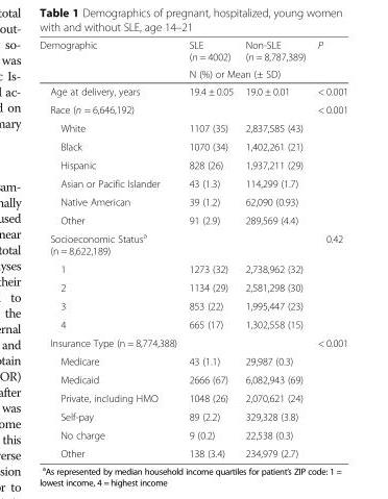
<table><thead><tr><td rowspan="2">Demographic</td><td>SLE (n = 4002)</td><td>Non-SLE (n = 8,787,389)</td><td rowspan="2">P</td></tr><tr><td colspan="2">N (%) or Mean (± SD)</td></tr></thead><tbody><tr><td>Age at delivery, years</td><td>19.4 ± 0.05</td><td>19.0 ± 0.01</td><td>&lt; 0.001</td></tr><tr><td>Race (n = 6,646,192)</td><td></td><td></td><td>&lt; 0.001</td></tr><tr><td>White</td><td>1107 (35)</td><td>2,837,585 (43)</td><td></td></tr><tr><td>Black</td><td>1070 (34)</td><td>1,402,261 (21)</td><td></td></tr><tr><td>Hispanic</td><td>828 (26)</td><td>1,937,211 (29)</td><td></td></tr><tr><td>Asian or Pacific Islander</td><td>43 (1.3)</td><td>114,299 (1.7)</td><td></td></tr><tr><td>Native American</td><td>39 (1.2)</td><td>62,090 (0.93)</td><td></td></tr><tr><td>Other</td><td>91 (2.9)</td><td>289,569 (4.4)</td><td></td></tr><tr><td>Socioeconomic Status<sup>a</sup> (n = 8,622,189)</td><td></td><td></td><td>0.42</td></tr><tr><td>1</td><td>1273 (32)</td><td>2,738,962 (32)</td><td></td></tr><tr><td>2</td><td>1134 (29)</td><td>2,581,298 (30)</td><td></td></tr><tr><td>3</td><td>853 (22)</td><td>1,995,447 (23)</td><td></td></tr><tr><td>4</td><td>665 (17)</td><td>1,302,558 (15)</td><td></td></tr><tr><td>Insurance Type (n = 8,774,388)</td><td></td><td></td><td>&lt; 0.001</td></tr><tr><td>Medicare</td><td>43 (1.1)</td><td>29,987 (0.3)</td><td></td></tr><tr><td>Medicaid</td><td>2666 (67)</td><td>6,082,943 (69)</td><td></td></tr><tr><td>Private, including HMO</td><td>1048 (26)</td><td>2,070,621 (24)</td><td></td></tr><tr><td>Self-pay</td><td>89 (2.2)</td><td>329,328 (3.8)</td><td></td></tr><tr><td>No charge</td><td>9 (0.2)</td><td>22,538 (0.3)</td><td></td></tr><tr><td>Other</td><td>138 (3.4)</td><td>234,979 (2.7)</td><td></td></tr></tbody></table>